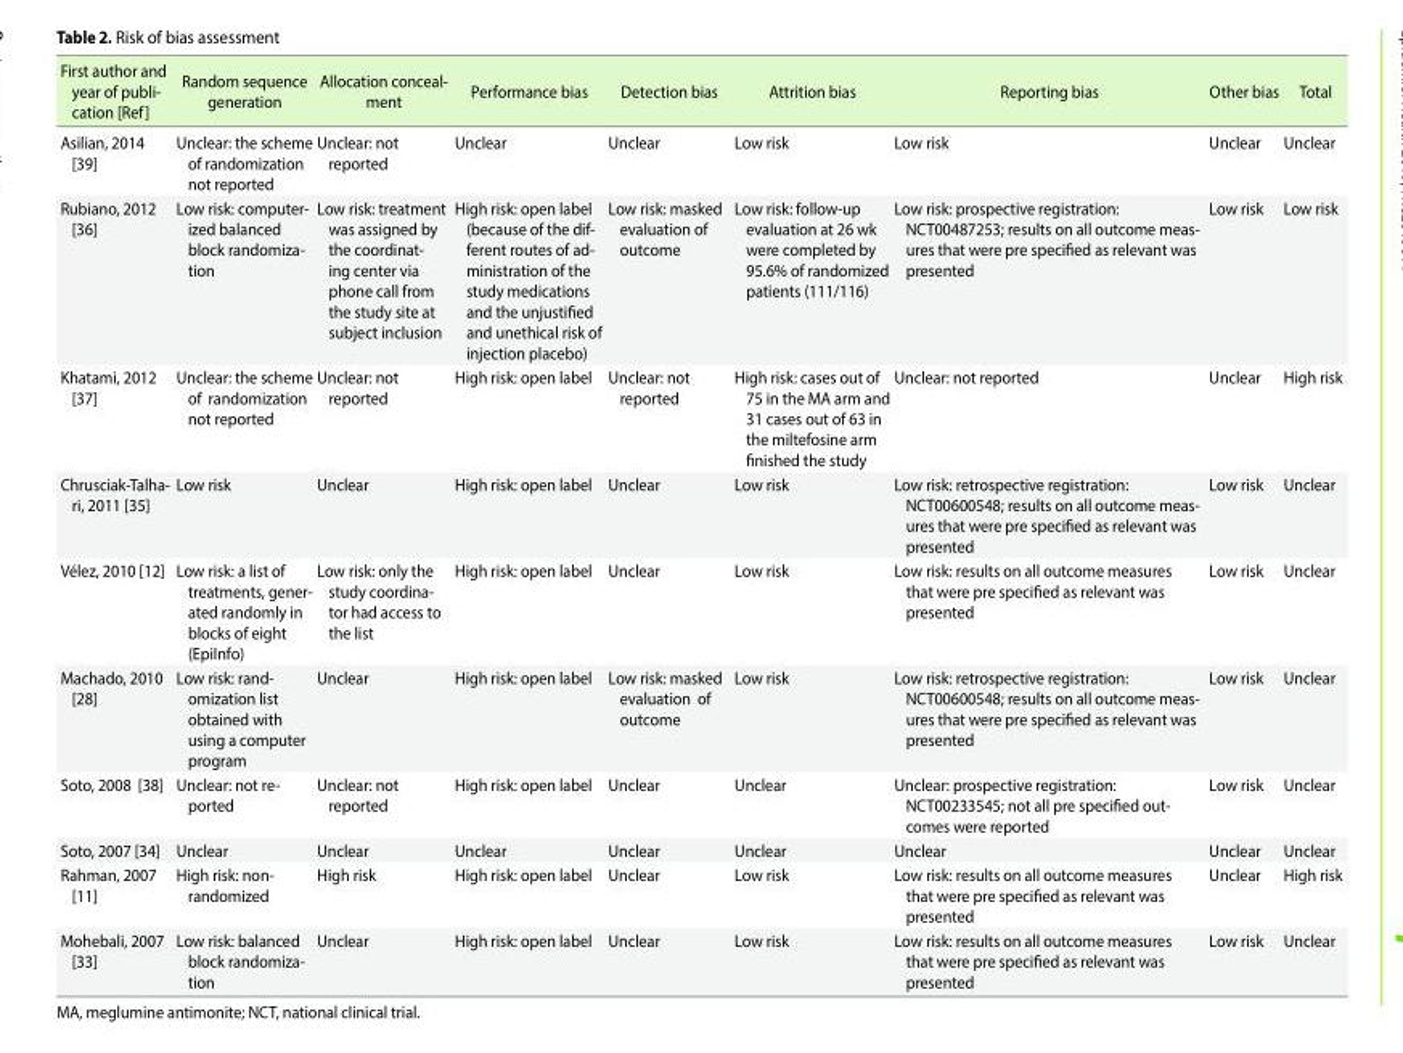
<table><thead><tr><td>First author and year of publi- cation [Ref]</td><td>Random sequence generation</td><td>Allocation conceal- ment</td><td>Performance bias</td><td>Detection bias</td><td>Attrition bias</td><td>Reporting bias</td><td>Other bias</td><td>Total</td></tr></thead><tbody><tr><td>Asilian, 2014 [39]</td><td>Unclear: the scheme of randomization not reported</td><td>Unclear: not reported</td><td>Unclear</td><td>Unclear</td><td>Low risk</td><td>Low risk</td><td>Unclear</td><td>Unclear</td></tr><tr><td>Rubiano, 2012 [36]</td><td>Low risk: computer- ized balanced block randomiza- tion</td><td>Low risk: treatment was assigned by the coordinat- ing center via phone call from the study site at subject inclusion</td><td>High risk: open label (because of the dif- ferent routes of ad- ministration of the study medications and the unjustified and unethical risk of injection placebo)</td><td>Low risk: masked evaluation of outcome</td><td>Low risk: follow-up evaluation at 26 wk were completed by 95.6% of randomized patients (111/116)</td><td>Low risk: prospective registration: NCT00487253; results on all outcome meas- ures that were pre specified as relevant was presented</td><td>Low risk</td><td>Low risk</td></tr><tr><td>Khatami, 2012 [37]</td><td>Unclear: the scheme of randomization not reported</td><td>Unclear: not reported</td><td>High risk: open label</td><td>Unclear: not reported</td><td>High risk: cases out of 75 in the MA arm and 31 cases out of 63 in the miltefosine arm finished the study</td><td>Unclear: not reported</td><td>Unclear</td><td>High risk</td></tr><tr><td>Chrusciak-Talha- ri, 2011 [35]</td><td>Low risk</td><td>Unclear</td><td>High risk: open label</td><td>Unclear</td><td>Low risk</td><td>Low risk: retrospective registration: NCT00600548; results on all outcome meas- ures that were pre specified as relevant was presented</td><td>Low risk</td><td>Unclear</td></tr><tr><td>Vélez, 2010 [12]</td><td>Low risk: a list of treatments, gener- ated randomly in blocks of eight (EpiInfo)</td><td>Low risk: only the study coordina- tor had access to the list</td><td>High risk: open label</td><td>Unclear</td><td>Low risk</td><td>Low risk: results on all outcome measures that were pre specified as relevant was presented</td><td>Low risk</td><td>Unclear</td></tr><tr><td>Machado, 2010 [28]</td><td>Low risk: rand- omization list obtained with using a computer program</td><td>Unclear</td><td>High risk: open label</td><td>Low risk: masked evaluation of outcome</td><td>Low risk</td><td>Low risk: retrospective registration: NCT00600548; results on all outcome meas- ures that were pre specified as relevant was presented</td><td>Low risk</td><td>Unclear</td></tr><tr><td>Soto, 2008 [38]</td><td>Unclear: not re- ported</td><td>Unclear: not reported</td><td>High risk: open label</td><td>Unclear</td><td>Unclear</td><td>Unclear: prospective registration: NCT00233545; not all pre specified out- comes were reported</td><td>Low risk</td><td>Unclear</td></tr><tr><td>Soto, 2007 [34]</td><td>Unclear</td><td>Unclear</td><td>Unclear</td><td>Unclear</td><td>Unclear</td><td>Unclear</td><td>Unclear</td><td>Unclear</td></tr><tr><td>Rahman, 2007 [11]</td><td>High risk: non- randomized</td><td>High risk</td><td>High risk: open label</td><td>Unclear</td><td>Low risk</td><td>Low risk: results on all outcome measures that were pre specified as relevant was presented</td><td>Unclear</td><td>High risk</td></tr><tr><td>Mohebali, 2007 [33]</td><td>Low risk: balanced block randomiza- tion</td><td>Unclear</td><td>High risk: open label</td><td>Unclear</td><td>Low risk</td><td>Low risk: results on all outcome measures that were pre specified as relevant was presented</td><td>Low risk</td><td>Unclear</td></tr></tbody></table>